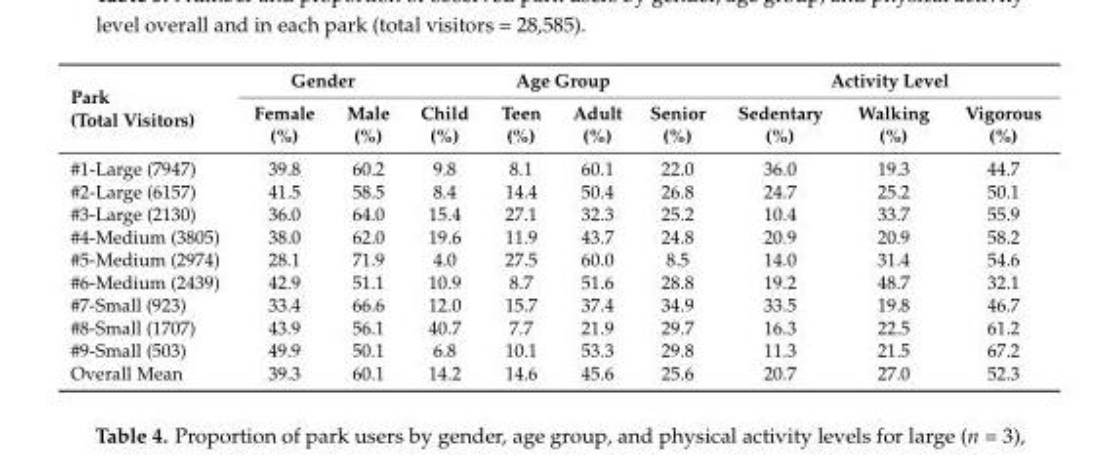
<table><thead><tr><td rowspan="2">Park (Total Visitors)</td><td colspan="2">Gender</td><td colspan="4">Age Group</td><td colspan="3">Activity Level</td></tr><tr><td>Female (%)</td><td>Male (%)</td><td>Child (%)</td><td>Teen (%)</td><td>Adult (%)</td><td>Senior (%)</td><td>Sedentary (%)</td><td>Walking (%)</td><td>Vigorous (%)</td></tr></thead><tbody><tr><td>#1-Large (7947)</td><td>39.8</td><td>60.2</td><td>9.8</td><td>8.1</td><td>60.1</td><td>22.0</td><td>36.0</td><td>19.3</td><td>44.7</td></tr><tr><td>#2-Large (6157)</td><td>41.5</td><td>58.5</td><td>8.4</td><td>14.4</td><td>50.4</td><td>26.8</td><td>24.7</td><td>25.2</td><td>50.1</td></tr><tr><td>#3-Large (2130)</td><td>36.0</td><td>64.0</td><td>15.4</td><td>27.1</td><td>32.3</td><td>25.2</td><td>10.4</td><td>33.7</td><td>55.9</td></tr><tr><td>#4-Medium (3805)</td><td>38.0</td><td>62.0</td><td>19.6</td><td>11.9</td><td>43.7</td><td>24.8</td><td>20.9</td><td>20.9</td><td>58.2</td></tr><tr><td>#5-Medium (2974)</td><td>28.1</td><td>71.9</td><td>4.0</td><td>27.5</td><td>60.0</td><td>8.5</td><td>14.0</td><td>31.4</td><td>54.6</td></tr><tr><td>#6-Medium (2439)</td><td>42.9</td><td>51.1</td><td>10.9</td><td>8.7</td><td>51.6</td><td>28.8</td><td>19.2</td><td>48.7</td><td>32.1</td></tr><tr><td>#7-Small (923)</td><td>33.4</td><td>66.6</td><td>12.0</td><td>15.7</td><td>37.4</td><td>34.9</td><td>33.5</td><td>19.8</td><td>46.7</td></tr><tr><td>#8-Small (1707)</td><td>43.9</td><td>56.1</td><td>40.7</td><td>7.7</td><td>21.9</td><td>29.7</td><td>16.3</td><td>22.5</td><td>61.2</td></tr><tr><td>#9-Small (503)</td><td>49.9</td><td>50.1</td><td>6.8</td><td>10.1</td><td>53.3</td><td>29.8</td><td>11.3</td><td>21.5</td><td>67.2</td></tr><tr><td>Overall Mean</td><td>39.3</td><td>60.1</td><td>14.2</td><td>14.6</td><td>45.6</td><td>25.6</td><td>20.7</td><td>27.0</td><td>52.3</td></tr></tbody></table>